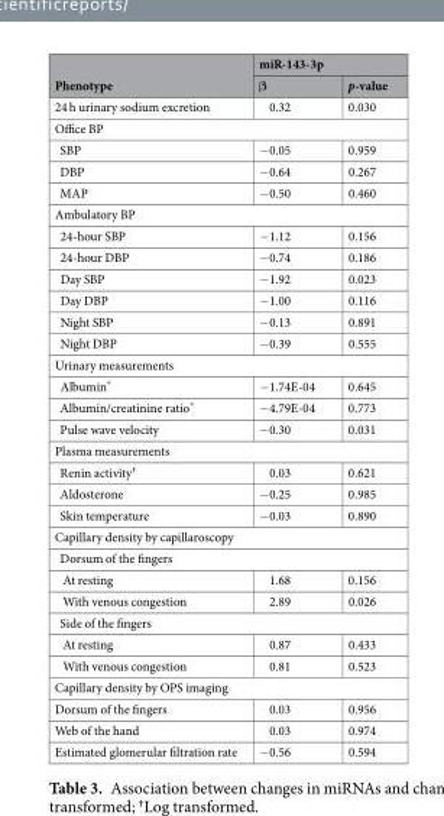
<table><thead><tr><td rowspan="2">Phenotype</td><td colspan="2">miR-143-3p</td></tr><tr><td>β</td><td>p-value</td></tr></thead><tbody><tr><td>24 h urinary sodium excretion</td><td>0.32</td><td>0.030</td></tr><tr><td colspan="3">Office BP</td></tr><tr><td>SBP</td><td>−0.05</td><td>0.959</td></tr><tr><td>DBP</td><td>−0.64</td><td>0.267</td></tr><tr><td>MAP</td><td>−0.50</td><td>0.460</td></tr><tr><td colspan="3">Ambulatory BP</td></tr><tr><td>24-hour SBP</td><td>−1.12</td><td>0.156</td></tr><tr><td>24-hour DBP</td><td>−0.74</td><td>0.186</td></tr><tr><td>Day SBP</td><td>−1.92</td><td>0.023</td></tr><tr><td>Day DBP</td><td>−1.00</td><td>0.116</td></tr><tr><td>Night SBP</td><td>−0.13</td><td>0.891</td></tr><tr><td>Night DBP</td><td>−0.39</td><td>0.555</td></tr><tr><td colspan="3">Urinary measurements</td></tr><tr><td>Albumin*</td><td>−1.74E-04</td><td>0.645</td></tr><tr><td>Albumin/creatinine ratio*</td><td>−4.79E-04</td><td>0.773</td></tr><tr><td>Pulse wave velocity</td><td>−0.30</td><td>0.031</td></tr><tr><td colspan="3">Plasma measurements</td></tr><tr><td>Renin activity<sup>†</sup></td><td>0.03</td><td>0.621</td></tr><tr><td>Aldosterone</td><td>−0.25</td><td>0.985</td></tr><tr><td>Skin temperature</td><td>−0.03</td><td>0.890</td></tr><tr><td colspan="3">Capillary density by capillaroscopy</td></tr><tr><td colspan="3">Dorsum of the fingers</td></tr><tr><td>At resting</td><td>1.68</td><td>0.156</td></tr><tr><td>With venous congestion</td><td>2.89</td><td>0.026</td></tr><tr><td colspan="3">Side of the fingers</td></tr><tr><td>At resting</td><td>0.87</td><td>0.433</td></tr><tr><td>With venous congestion</td><td>0.81</td><td>0.523</td></tr><tr><td colspan="3">Capillary density by OPS imaging</td></tr><tr><td>Dorsum of the fingers</td><td>0.03</td><td>0.956</td></tr><tr><td>Web of the hand</td><td>0.03</td><td>0.974</td></tr><tr><td>Estimated glomerular filtration rate</td><td>−0.56</td><td>0.594</td></tr></tbody></table>